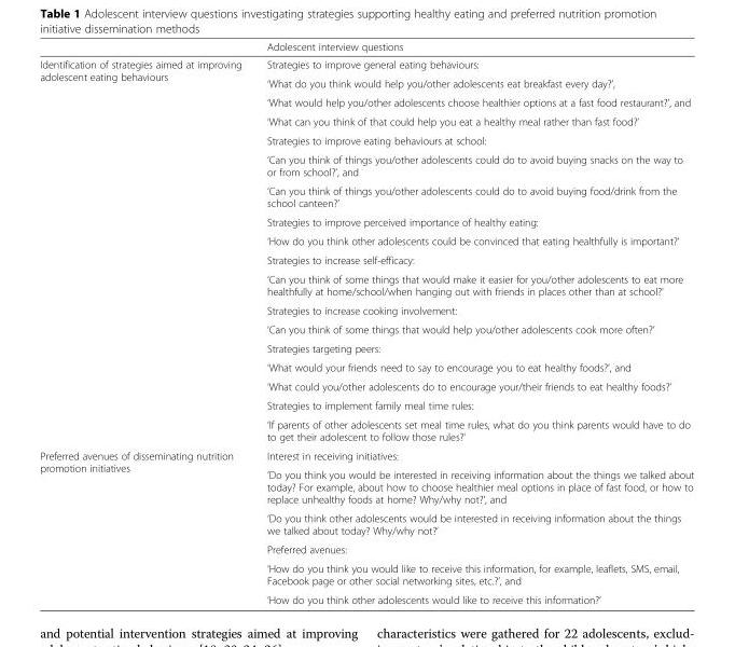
<table><thead><tr><td></td><td>Adolescent interview questions</td></tr></thead><tbody><tr><td rowspan="18">Identification of strategies aimed at improving adolescent eating behaviours</td><td>Strategies to improve general eating behaviours:</td></tr><tr><td>‘What do you think would help you/other adolescents eat breakfast every day?’,</td></tr><tr><td>‘What would help you/other adolescents choose healthier options at a fast food restaurant?’, and</td></tr><tr><td>‘What can you think of that could help you eat a healthy meal rather than fast food?’</td></tr><tr><td>Strategies to improve eating behaviours at school:</td></tr><tr><td>‘Can you think of things you/other adolescents could do to avoid buying snacks on the way to or from school?’, and</td></tr><tr><td>‘Can you think of things you/other adolescents could do to avoid buying food/drink from the school canteen?’</td></tr><tr><td>Strategies to improve perceived importance of healthy eating:</td></tr><tr><td>‘How do you think other adolescents could be convinced that eating healthfully is important?’</td></tr><tr><td>Strategies to increase self-efficacy:</td></tr><tr><td>‘Can you think of some things that would make it easier for you/other adolescents to eat more healthfully at home/school/when hanging out with friends in places other than at school?’</td></tr><tr><td>Strategies to increase cooking involvement:</td></tr><tr><td>‘Can you think of some things that would help you/other adolescents cook more often?’</td></tr><tr><td>Strategies targeting peers:</td></tr><tr><td>‘What would your friends need to say to encourage you to eat healthy foods?’, and</td></tr><tr><td>‘What could you/other adolescents do to encourage your/their friends to eat healthy foods?’</td></tr><tr><td>Strategies to implement family meal time rules:</td></tr><tr><td>‘If parents of other adolescents set meal time rules, what do you think parents would have to do to get their adolescent to follow those rules?’</td></tr><tr><td rowspan="6">Preferred avenues of disseminating nutrition promotion initiatives</td><td>Interest in receiving initiatives:</td></tr><tr><td>‘Do you think you would be interested in receiving information about the things we talked about today? For example, about how to choose healthier meal options in place of fast food, or how to replace unhealthy foods at home? Why/why not?’, and</td></tr><tr><td>‘Do you think other adolescents would be interested in receiving information about the things we talked about today? Why/why not?’</td></tr><tr><td>Preferred avenues:</td></tr><tr><td>‘How do you think you would like to receive this information, for example, leaflets, SMS, email, Facebook page or other social networking sites, etc.?’, and</td></tr><tr><td>‘How do you think other adolescents would like to receive this information?’</td></tr></tbody></table>